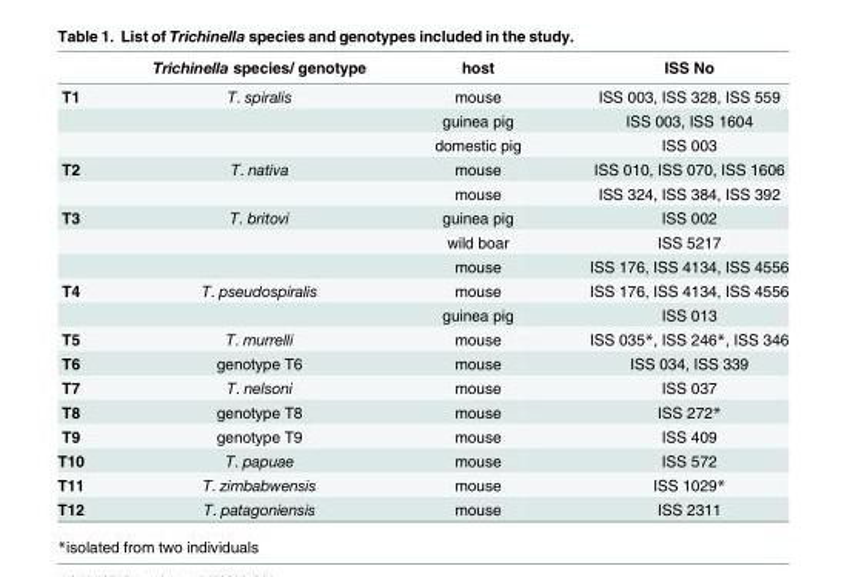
<table><thead><tr><td></td><td>Trichinella species/ genotype</td><td>host</td><td>ISS No</td></tr></thead><tbody><tr><td rowspan="3">T1</td><td>T. spiralis</td><td>mouse</td><td>ISS 003, ISS 328, ISS 559</td></tr><tr><td></td><td>guinea pig</td><td>ISS 003, ISS 1604</td></tr><tr><td></td><td>domestic pig</td><td>ISS 003</td></tr><tr><td rowspan="2">T2</td><td>T. nativa</td><td>mouse</td><td>ISS 010, ISS 070, ISS 1606</td></tr><tr><td></td><td>mouse</td><td>ISS 324, ISS 384, ISS 392</td></tr><tr><td rowspan="3">T3</td><td>T. britovi</td><td>guinea pig</td><td>ISS 002</td></tr><tr><td></td><td>wild boar</td><td>ISS 5217</td></tr><tr><td></td><td>mouse</td><td>ISS 176, ISS 4134, ISS 4556</td></tr><tr><td rowspan="2">T4</td><td>T. pseudospiralis</td><td>mouse</td><td>ISS 176, ISS 4134, ISS 4556</td></tr><tr><td></td><td>guinea pig</td><td>ISS 013</td></tr><tr><td>T5</td><td>T. murrelli</td><td>mouse</td><td>ISS 035*, ISS 246*, ISS 346</td></tr><tr><td>T6</td><td>genotype T6</td><td>mouse</td><td>ISS 034, ISS 339</td></tr><tr><td>T7</td><td>T. nelsoni</td><td>mouse</td><td>ISS 037</td></tr><tr><td>T8</td><td>genotype T8</td><td>mouse</td><td>ISS 272*</td></tr><tr><td>T9</td><td>genotype T9</td><td>mouse</td><td>ISS 409</td></tr><tr><td>T10</td><td>T. papuae</td><td>mouse</td><td>ISS 572</td></tr><tr><td>T11</td><td>T. zimbabwensis</td><td>mouse</td><td>ISS 1029*</td></tr><tr><td>T12</td><td>T. patagoniensis</td><td>mouse</td><td>ISS 2311</td></tr></tbody></table>